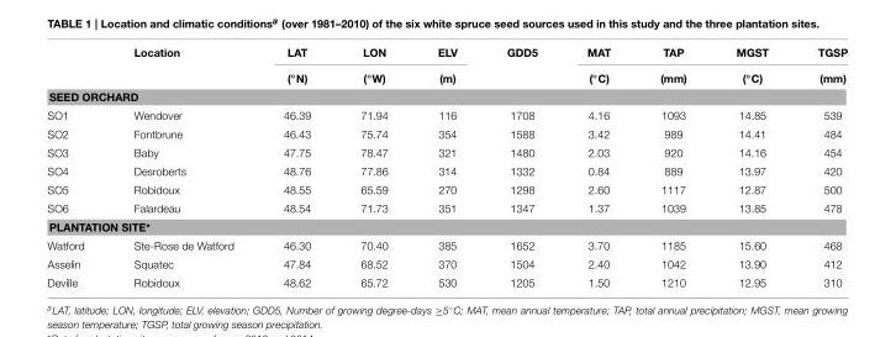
<table><thead><tr><td rowspan="2"></td><td rowspan="2">Location</td><td rowspan="2">LAT (◦N)</td><td rowspan="2">LON (◦W)</td><td rowspan="2">ELV (m)</td><td rowspan="2">GDD5</td><td rowspan="2">MAT (◦C)</td><td rowspan="2">TAP (mm)</td><td rowspan="2">MGST (◦C)</td><td rowspan="2">TGSP (mm)</td></tr><tr></tr></thead><tbody><tr><td colspan="10">SEED ORCHARD</td></tr><tr><td>SO1</td><td>Wendover</td><td>46.39</td><td>71.94</td><td>116</td><td>1708</td><td>4.16</td><td>1093</td><td>14.85</td><td>539</td></tr><tr><td>SO2</td><td>Fontbrune</td><td>46.43</td><td>75.74</td><td>354</td><td>1588</td><td>3.42</td><td>989</td><td>14.41</td><td>484</td></tr><tr><td>SO3</td><td>Baby</td><td>47.75</td><td>78.47</td><td>321</td><td>1480</td><td>2.03</td><td>920</td><td>14.16</td><td>454</td></tr><tr><td>SO4</td><td>Desroberts</td><td>48.76</td><td>77.86</td><td>314</td><td>1332</td><td>0.84</td><td>889</td><td>13.97</td><td>420</td></tr><tr><td>SO5</td><td>Robidoux</td><td>48.55</td><td>65.59</td><td>270</td><td>1298</td><td>2.60</td><td>1117</td><td>12.87</td><td>500</td></tr><tr><td>SO6</td><td>Falardeau</td><td>48.54</td><td>71.73</td><td>351</td><td>1347</td><td>1.37</td><td>1039</td><td>13.85</td><td>478</td></tr><tr><td colspan="10">PLANTATION SITE*</td></tr><tr><td>Watford</td><td>Ste-Rose de Watford</td><td>46.30</td><td>70.40</td><td>385</td><td>1652</td><td>3.70</td><td>1185</td><td>15.60</td><td>468</td></tr><tr><td>Asselin</td><td>Squatec</td><td>47.84</td><td>68.52</td><td>370</td><td>1504</td><td>2.40</td><td>1042</td><td>13.90</td><td>412</td></tr><tr><td>Deville</td><td>Robidoux</td><td>48.62</td><td>65.72</td><td>530</td><td>1205</td><td>1.50</td><td>1210</td><td>12.95</td><td>310</td></tr></tbody></table>